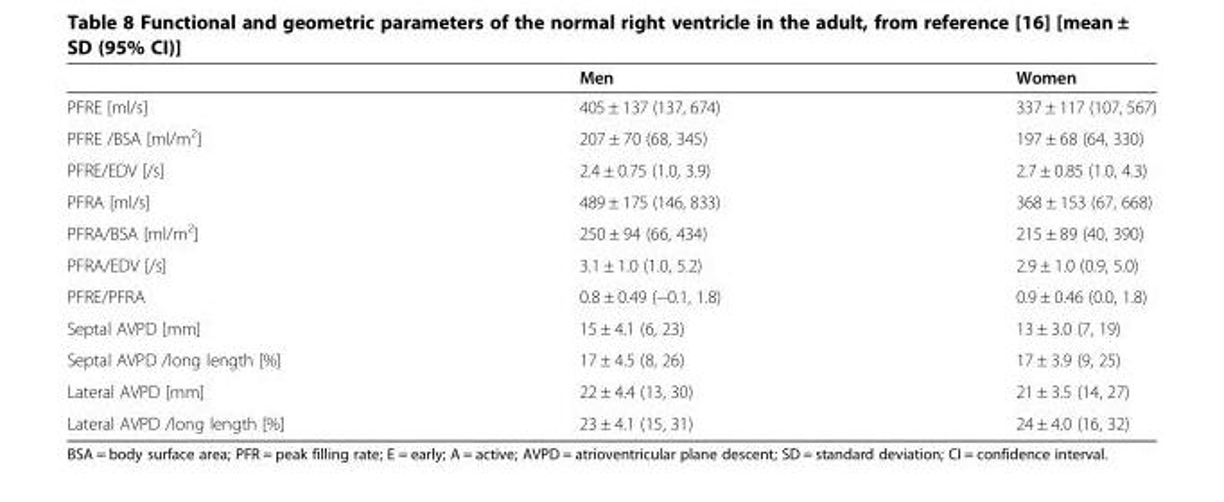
<table><thead><tr><td></td><td>Men</td><td>Women</td></tr></thead><tbody><tr><td>PFRE [ml/s]</td><td>405 ± 137 (137, 674)</td><td>337 ± 117 (107, 567)</td></tr><tr><td>PFRE /BSA [ml/m<sup>2</sup>]</td><td>207 ± 70 (68, 345)</td><td>197 ± 68 (64, 330)</td></tr><tr><td>PFRE/EDV [/s]</td><td>2.4 ± 0.75 (1.0, 3.9)</td><td>2.7 ± 0.85 (1.0, 4.3)</td></tr><tr><td>PFRA [ml/s]</td><td>489 ± 175 (146, 833)</td><td>368 ± 153 (67, 668)</td></tr><tr><td>PFRA/BSA [ml/m<sup>2</sup>]</td><td>250 ± 94 (66, 434)</td><td>215 ± 89 (40, 390)</td></tr><tr><td>PFRA/EDV [/s]</td><td>3.1 ± 1.0 (1.0, 5.2)</td><td>2.9 ± 1.0 (0.9, 5.0)</td></tr><tr><td>PFRE/PFRA</td><td>0.8 ± 0.49 (−0.1, 1.8)</td><td>0.9 ± 0.46 (0.0, 1.8)</td></tr><tr><td>Septal AVPD [mm]</td><td>15 ± 4.1 (6, 23)</td><td>13 ± 3.0 (7, 19)</td></tr><tr><td>Septal AVPD /long length [%]</td><td>17 ± 4.5 (8, 26)</td><td>17 ± 3.9 (9, 25)</td></tr><tr><td>Lateral AVPD [mm]</td><td>22 ± 4.4 (13, 30)</td><td>21 ± 3.5 (14, 27)</td></tr><tr><td>Lateral AVPD /long length [%]</td><td>23 ± 4.1 (15, 31)</td><td>24 ± 4.0 (16, 32)</td></tr></tbody></table>